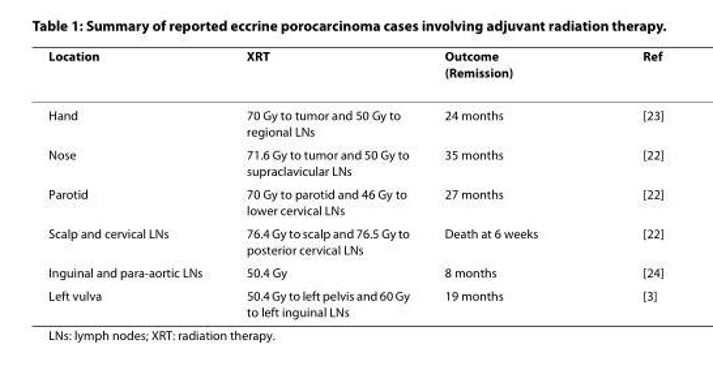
<table><thead><tr><td>Location</td><td>XRT</td><td>Outcome (Remission)</td><td>Ref</td></tr></thead><tbody><tr><td>Hand</td><td>70 Gy to tumor and 50 Gy to regional LNs</td><td>24 months</td><td>[23]</td></tr><tr><td>Nose</td><td>71.6 Gy to tumor and 50 Gy to supraclavicular LNs</td><td>35 months</td><td>[22]</td></tr><tr><td>Parotid</td><td>70 Gy to parotid and 46 Gy to lower cervical LNs</td><td>27 months</td><td>[22]</td></tr><tr><td>Scalp and cervical LNs</td><td>76.4 Gy to scalp and 76.5 Gy to posterior cervical LNs</td><td>Death at 6 weeks</td><td>[22]</td></tr><tr><td>Inguinal and para-aortic LNs</td><td>50.4 Gy</td><td>8 months</td><td>[24]</td></tr><tr><td>Left vulva</td><td>50.4 Gy to left pelvis and 60 Gy to left inguinal LNs</td><td>19 months</td><td>[3]</td></tr></tbody></table>